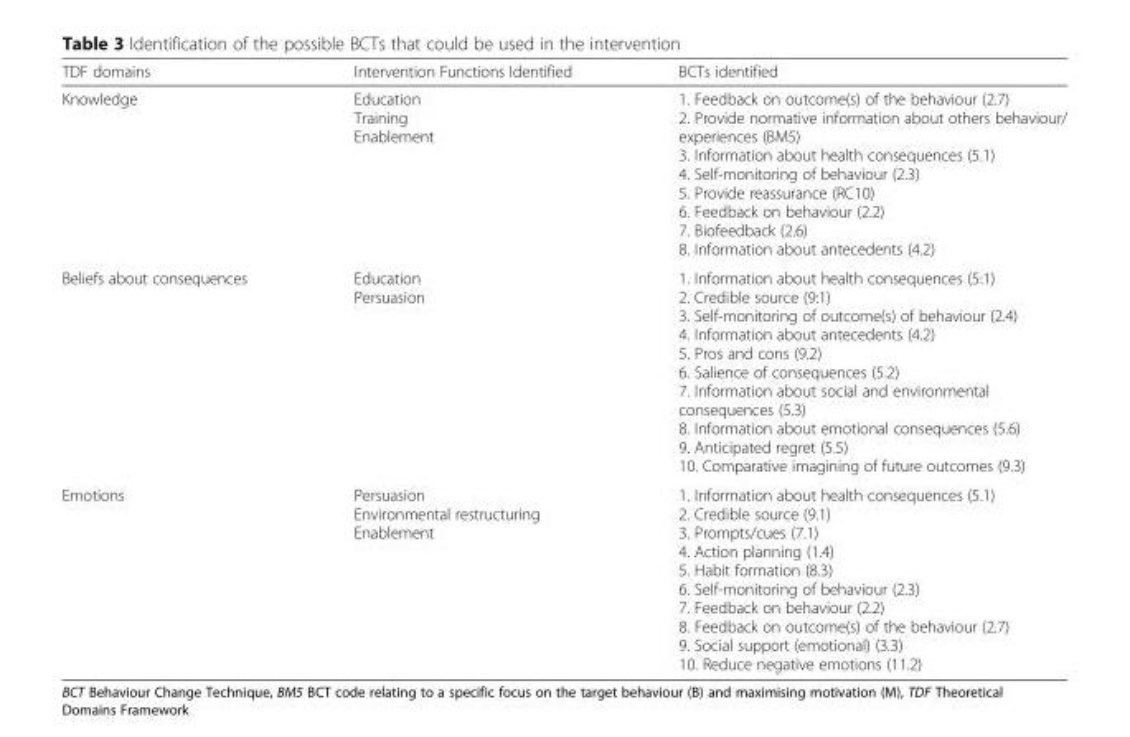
<table><thead><tr><td>TDF domains</td><td>Intervention Functions Identified</td><td>BCTs identified</td></tr></thead><tbody><tr><td>Knowledge</td><td>Education Training Enablement</td><td>1. Feedback on outcome(s) of the behaviour (2.7) 2. Provide normative information about others behaviour/ experiences (BM5) 3. Information about health consequences (5.1) 4. Self-monitoring of behaviour (2.3) 5. Provide reassurance (RC10) 6. Feedback on behaviour (2.2) 7. Biofeedback (2.6) 8. Information about antecedents (4.2)</td></tr><tr><td>Beliefs about consequences</td><td>Education Persuasion</td><td>1. Information about health consequences (5:1) 2. Credible source (9:1) 3. Self-monitoring of outcome(s) of behaviour (2.4) 4. Information about antecedents (4.2) 5. Pros and cons (9.2) 6. Salience of consequences (5.2) 7. Information about social and environmental consequences (5.3) 8. Information about emotional consequences (5.6) 9. Anticipated regret (5.5) 10. Comparative imagining of future outcomes (9.3)</td></tr><tr><td>Emotions</td><td>Persuasion Environmental restructuring Enablement</td><td>1. Information about health consequences (5.1) 2. Credible source (9.1) 3. Prompts/cues (7.1) 4. Action planning (1.4) 5. Habit formation (8.3) 6. Self-monitoring of behaviour (2.3) 7. Feedback on behaviour (2.2) 8. Feedback on outcome(s) of the behaviour (2.7) 9. Social support (emotional) (3.3) 10. Reduce negative emotions (11.2)</td></tr></tbody></table>